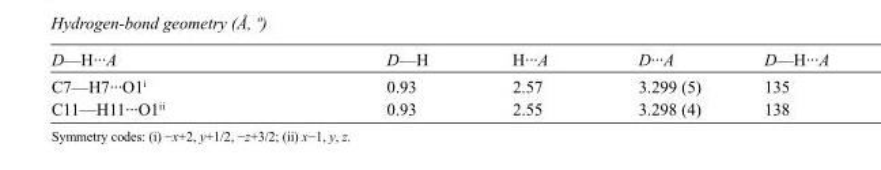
<table><tbody><tr><td>D—H···A</td><td>D—H</td><td>H···A</td><td>D···A</td><td>D—H···A</td></tr><tr><td>C7—H7···O1<sup>i</sup></td><td>0.93</td><td>2.57</td><td>3.299 (5)</td><td>135</td></tr><tr><td>C11—H11···O1<sup>ii</sup></td><td>0.93</td><td>2.55</td><td>3.298 (4)</td><td>138</td></tr></tbody></table>